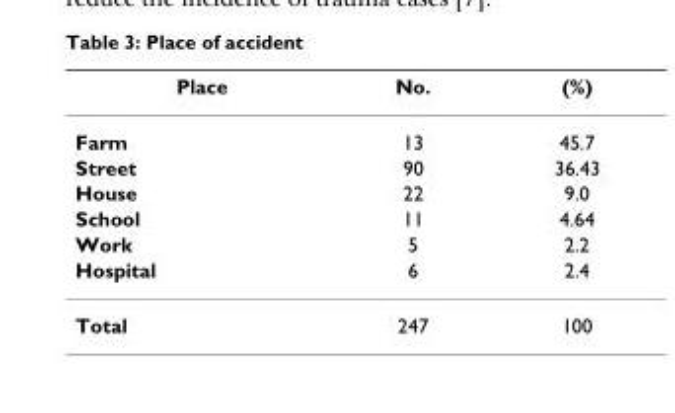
<table><thead><tr><td>Place</td><td>No.</td><td>(%)</td></tr></thead><tbody><tr><td>Farm</td><td>13</td><td>45.7</td></tr><tr><td>Street</td><td>90</td><td>36.43</td></tr><tr><td>House</td><td>22</td><td>9.0</td></tr><tr><td>School</td><td>11</td><td>4.64</td></tr><tr><td>Work</td><td>5</td><td>2.2</td></tr><tr><td>Hospital</td><td>6</td><td>2.4</td></tr><tr><td>Total</td><td>247</td><td>100</td></tr></tbody></table>